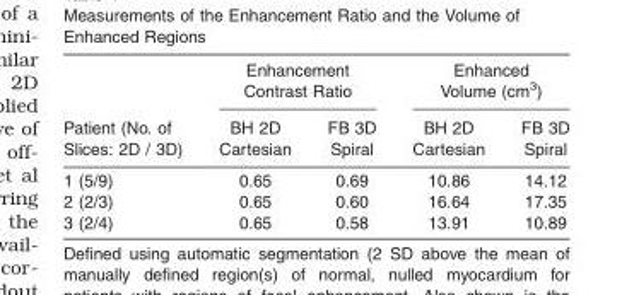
<table><thead><tr><td rowspan="2">Patient (No. of Slices: 2D / 3D)</td><td colspan="2">Enhancement Contrast Ratio</td><td colspan="2">Enhanced Volume (cm<sup>3</sup>)</td></tr><tr><td>BH 2D Cartesian</td><td>FB 3D Spiral</td><td>BH 2D Cartesian</td><td>FB 3D Spiral</td></tr></thead><tbody><tr><td>1 (5/9)</td><td>0.65</td><td>0.69</td><td>10.86</td><td>14.12</td></tr><tr><td>2 (2/3)</td><td>0.65</td><td>0.60</td><td>16.64</td><td>17.35</td></tr><tr><td>3 (2/4)</td><td>0.65</td><td>0.58</td><td>13.91</td><td>10.89</td></tr></tbody></table>